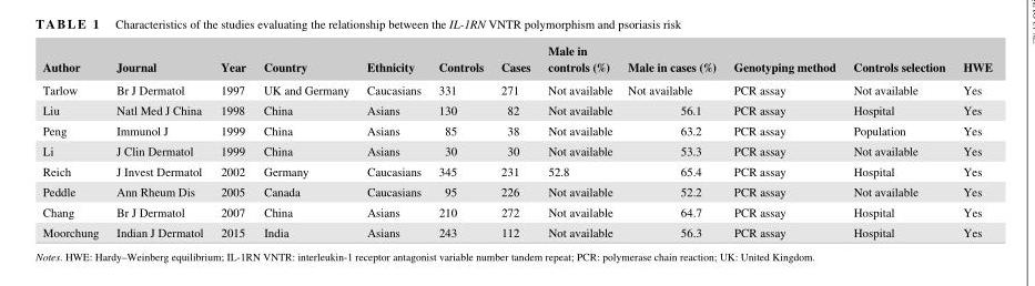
<table><thead><tr><td>Author</td><td>Journal</td><td>Year</td><td>Country</td><td>Ethnicity</td><td>Controls</td><td>Cases</td><td>Male in controls (%)</td><td>Male in cases (%)</td><td>Genotyping method</td><td>Controls selection</td><td>HWE</td></tr></thead><tbody><tr><td>Tarlow</td><td>Br J Dermatol</td><td>1997</td><td>UK and Germany</td><td>Caucasians</td><td>331</td><td>271</td><td>Not available</td><td>Not available</td><td>PCR assay</td><td>Not available</td><td>Yes</td></tr><tr><td>Liu</td><td>Natl Med J China</td><td>1998</td><td>China</td><td>Asians</td><td>130</td><td>82</td><td>Not available</td><td>56.1</td><td>PCR assay</td><td>Hospital</td><td>Yes</td></tr><tr><td>Peng</td><td>Immunol J</td><td>1999</td><td>China</td><td>Asians</td><td>85</td><td>38</td><td>Not available</td><td>63.2</td><td>PCR assay</td><td>Population</td><td>Yes</td></tr><tr><td>Li</td><td>J Clin Dermatol</td><td>1999</td><td>China</td><td>Asians</td><td>30</td><td>30</td><td>Not available</td><td>53.3</td><td>PCR assay</td><td>Not available</td><td>Yes</td></tr><tr><td>Reich</td><td>J Invest Dermatol</td><td>2002</td><td>Germany</td><td>Caucasians</td><td>345</td><td>231</td><td>52.8</td><td>65.4</td><td>PCR assay</td><td>Hospital</td><td>Yes</td></tr><tr><td>Peddle</td><td>Ann Rheum Dis</td><td>2005</td><td>Canada</td><td>Caucasians</td><td>95</td><td>226</td><td>Not available</td><td>52.2</td><td>PCR assay</td><td>Not available</td><td>Yes</td></tr><tr><td>Chang</td><td>Br J Dermatol</td><td>2007</td><td>China</td><td>Asians</td><td>210</td><td>272</td><td>Not available</td><td>64.7</td><td>PCR assay</td><td>Hospital</td><td>Yes</td></tr><tr><td>Moorchung</td><td>Indian J Dermatol</td><td>2015</td><td>India</td><td>Asians</td><td>243</td><td>112</td><td>Not available</td><td>56.3</td><td>PCR assay</td><td>Hospital</td><td>Yes</td></tr></tbody></table>